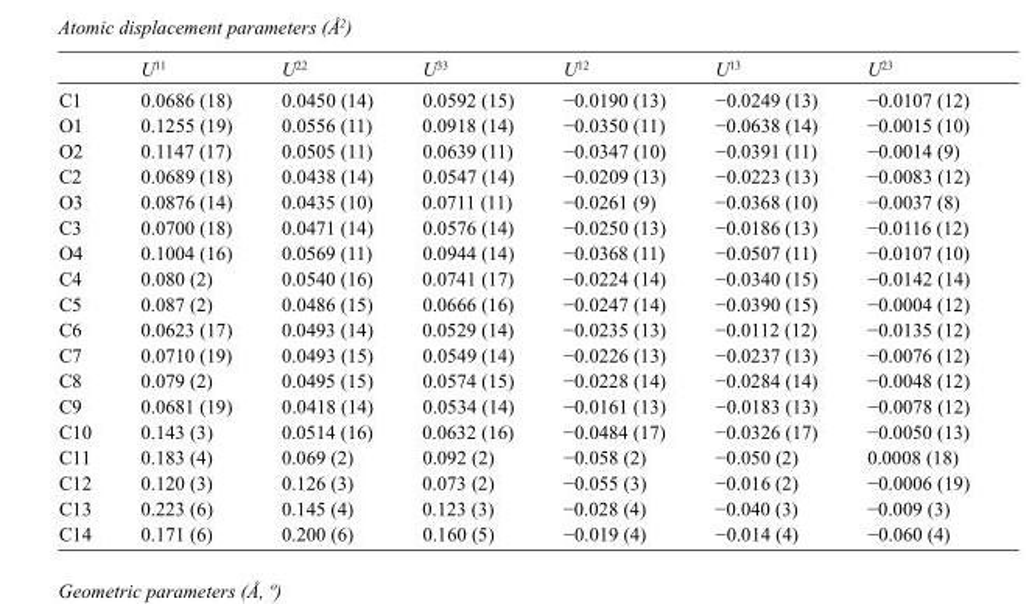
<table><thead><tr><td></td><td>U<sup>11</sup></td><td>U<sup>22</sup></td><td>U<sup>33</sup></td><td>U<sup>12</sup></td><td>U<sup>13</sup></td><td>U<sup>23</sup></td></tr></thead><tbody><tr><td>C1</td><td>0.0686 (18)</td><td>0.0450 (14)</td><td>0.0592 (15)</td><td>−0.0190 (13)</td><td>−0.0249 (13)</td><td>−0.0107 (12)</td></tr><tr><td>O1</td><td>0.1255 (19)</td><td>0.0556 (11)</td><td>0.0918 (14)</td><td>−0.0350 (11)</td><td>−0.0638 (14)</td><td>−0.0015 (10)</td></tr><tr><td>O2</td><td>0.1147 (17)</td><td>0.0505 (11)</td><td>0.0639 (11)</td><td>−0.0347 (10)</td><td>−0.0391 (11)</td><td>−0.0014 (9)</td></tr><tr><td>C2</td><td>0.0689 (18)</td><td>0.0438 (14)</td><td>0.0547 (14)</td><td>−0.0209 (13)</td><td>−0.0223 (13)</td><td>−0.0083 (12)</td></tr><tr><td>O3</td><td>0.0876 (14)</td><td>0.0435 (10)</td><td>0.0711 (11)</td><td>−0.0261 (9)</td><td>−0.0368 (10)</td><td>−0.0037 (8)</td></tr><tr><td>C3</td><td>0.0700 (18)</td><td>0.0471 (14)</td><td>0.0576 (14)</td><td>−0.0250 (13)</td><td>−0.0186 (13)</td><td>−0.0116 (12)</td></tr><tr><td>O4</td><td>0.1004 (16)</td><td>0.0569 (11)</td><td>0.0944 (14)</td><td>−0.0368 (11)</td><td>−0.0507 (11)</td><td>−0.0107 (10)</td></tr><tr><td>C4</td><td>0.080 (2)</td><td>0.0540 (16)</td><td>0.0741 (17)</td><td>−0.0224 (14)</td><td>−0.0340 (15)</td><td>−0.0142 (14)</td></tr><tr><td>C5</td><td>0.087 (2)</td><td>0.0486 (15)</td><td>0.0666 (16)</td><td>−0.0247 (14)</td><td>−0.0390 (15)</td><td>−0.0004 (12)</td></tr><tr><td>C6</td><td>0.0623 (17)</td><td>0.0493 (14)</td><td>0.0529 (14)</td><td>−0.0235 (13)</td><td>−0.0112 (12)</td><td>−0.0135 (12)</td></tr><tr><td>C7</td><td>0.0710 (19)</td><td>0.0493 (15)</td><td>0.0549 (14)</td><td>−0.0226 (13)</td><td>−0.0237 (13)</td><td>−0.0076 (12)</td></tr><tr><td>C8</td><td>0.079 (2)</td><td>0.0495 (15)</td><td>0.0574 (15)</td><td>−0.0228 (14)</td><td>−0.0284 (14)</td><td>−0.0048 (12)</td></tr><tr><td>C9</td><td>0.0681 (19)</td><td>0.0418 (14)</td><td>0.0534 (14)</td><td>−0.0161 (13)</td><td>−0.0183 (13)</td><td>−0.0078 (12)</td></tr><tr><td>C10</td><td>0.143 (3)</td><td>0.0514 (16)</td><td>0.0632 (16)</td><td>−0.0484 (17)</td><td>−0.0326 (17)</td><td>−0.0050 (13)</td></tr><tr><td>C11</td><td>0.183 (4)</td><td>0.069 (2)</td><td>0.092 (2)</td><td>−0.058 (2)</td><td>−0.050 (2)</td><td>0.0008 (18)</td></tr><tr><td>C12</td><td>0.120 (3)</td><td>0.126 (3)</td><td>0.073 (2)</td><td>−0.055 (3)</td><td>−0.016 (2)</td><td>−0.0006 (19)</td></tr><tr><td>C13</td><td>0.223 (6)</td><td>0.145 (4)</td><td>0.123 (3)</td><td>−0.028 (4)</td><td>−0.040 (3)</td><td>−0.009 (3)</td></tr><tr><td>C14</td><td>0.171 (6)</td><td>0.200 (6)</td><td>0.160 (5)</td><td>−0.019 (4)</td><td>−0.014 (4)</td><td>−0.060 (4)</td></tr></tbody></table>